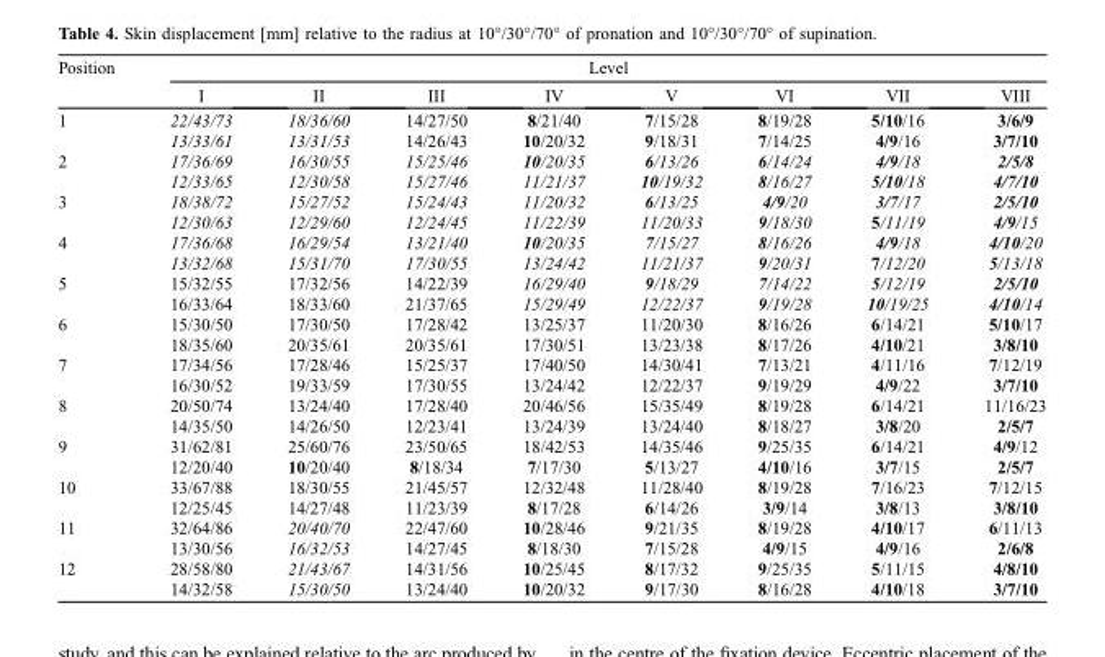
<table><thead><tr><td rowspan="2">Position</td><td colspan="8">Level</td></tr><tr><td>I</td><td>II</td><td>III</td><td>IV</td><td>V</td><td>VI</td><td>VII</td><td>VIII</td></tr></thead><tbody><tr><td rowspan="2">1</td><td>22/43/73</td><td>18/36/60</td><td>14/27/50</td><td>8/21/40</td><td>7/15/28</td><td>8/19/28</td><td>5/10/16</td><td>3/6/9</td></tr><tr><td>13/33/61</td><td>13/31/53</td><td>14/26/43</td><td>10/20/32</td><td>9/18/31</td><td>7/14/25</td><td>4/9/16</td><td>3/7/10</td></tr><tr><td rowspan="2">2</td><td>17/36/69</td><td>16/30/55</td><td>15/25/46</td><td>10/20/35</td><td>6/13/26</td><td>6/14/24</td><td>4/9/18</td><td>2/5/8</td></tr><tr><td>12/33/65</td><td>12/30/58</td><td>15/27/46</td><td>11/21/37</td><td>10/19/32</td><td>8/16/27</td><td>5/10/18</td><td>4/7/10</td></tr><tr><td rowspan="2">3</td><td>18/38/72</td><td>15/27/52</td><td>15/24/43</td><td>11/20/32</td><td>6/13/25</td><td>4/9/20</td><td>3/7/17</td><td>2/5/10</td></tr><tr><td>12/30/63</td><td>12/29/60</td><td>12/24/45</td><td>11/22/39</td><td>11/20/33</td><td>9/18/30</td><td>5/11/19</td><td>4/9/15</td></tr><tr><td rowspan="2">4</td><td>17/36/68</td><td>16/29/54</td><td>13/21/40</td><td>10/20/35</td><td>7/15/27</td><td>8/16/26</td><td>4/9/18</td><td>4/10/20</td></tr><tr><td>13/32/68</td><td>15/31/70</td><td>17/30/55</td><td>13/24/42</td><td>11/21/37</td><td>9/20/31</td><td>7/12/20</td><td>5/13/18</td></tr><tr><td rowspan="2">5</td><td>15/32/55</td><td>17/32/56</td><td>14/22/39</td><td>16/29/40</td><td>9/18/29</td><td>7/14/22</td><td>5/12/19</td><td>2/5/10</td></tr><tr><td>16/33/64</td><td>18/33/60</td><td>21/37/65</td><td>15/29/49</td><td>12/22/37</td><td>9/19/28</td><td>10/19/25</td><td>4/10/14</td></tr><tr><td rowspan="2">6</td><td>15/30/50</td><td>17/30/50</td><td>17/28/42</td><td>13/25/37</td><td>11/20/30</td><td>8/16/26</td><td>6/14/21</td><td>5/10/17</td></tr><tr><td>18/35/60</td><td>20/35/61</td><td>20/35/61</td><td>17/30/51</td><td>13/23/38</td><td>8/17/26</td><td>4/10/21</td><td>3/8/10</td></tr><tr><td rowspan="2">7</td><td>17/34/56</td><td>17/28/46</td><td>15/25/37</td><td>17/40/50</td><td>14/30/41</td><td>7/13/21</td><td>4/11/16</td><td>7/12/19</td></tr><tr><td>16/30/52</td><td>19/33/59</td><td>17/30/55</td><td>13/24/42</td><td>12/22/37</td><td>9/19/29</td><td>4/9/22</td><td>3/7/10</td></tr><tr><td rowspan="2">8</td><td>20/50/74</td><td>13/24/40</td><td>17/28/40</td><td>20/46/56</td><td>15/35/49</td><td>8/19/28</td><td>6/14/21</td><td>11/16/23</td></tr><tr><td>14/35/50</td><td>14/26/50</td><td>12/23/41</td><td>13/24/39</td><td>13/24/40</td><td>8/18/27</td><td>3/8/20</td><td>2/5/7</td></tr><tr><td rowspan="2">9</td><td>31/62/81</td><td>25/60/76</td><td>23/50/65</td><td>18/42/53</td><td>14/35/46</td><td>9/25/35</td><td>6/14/21</td><td>4/9/12</td></tr><tr><td>12/20/40</td><td>10/20/40</td><td>8/18/34</td><td>7/17/30</td><td>5/13/27</td><td>4/10/16</td><td>3/7/15</td><td>2/5/7</td></tr><tr><td rowspan="2">10</td><td>33/67/88</td><td>18/30/55</td><td>21/45/57</td><td>12/32/48</td><td>11/28/40</td><td>8/19/28</td><td>7/16/23</td><td>7/12/15</td></tr><tr><td>12/25/45</td><td>14/27/48</td><td>11/23/39</td><td>8/17/28</td><td>6/14/26</td><td>3/9/14</td><td>3/8/13</td><td>3/8/10</td></tr><tr><td rowspan="2">11</td><td>32/64/86</td><td>20/40/70</td><td>22/47/60</td><td>10/28/46</td><td>9/21/35</td><td>8/19/28</td><td>4/10/17</td><td>6/11/13</td></tr><tr><td>13/30/56</td><td>16/32/53</td><td>14/27/45</td><td>8/18/30</td><td>7/15/28</td><td>4/9/15</td><td>4/9/16</td><td>2/6/8</td></tr><tr><td rowspan="2">12</td><td>28/58/80</td><td>21/43/67</td><td>14/31/56</td><td>10/25/45</td><td>8/17/32</td><td>9/25/35</td><td>5/11/15</td><td>4/8/10</td></tr><tr><td>14/32/58</td><td>15/30/50</td><td>13/24/40</td><td>10/20/32</td><td>9/17/30</td><td>8/16/28</td><td>4/10/18</td><td>3/7/10</td></tr></tbody></table>